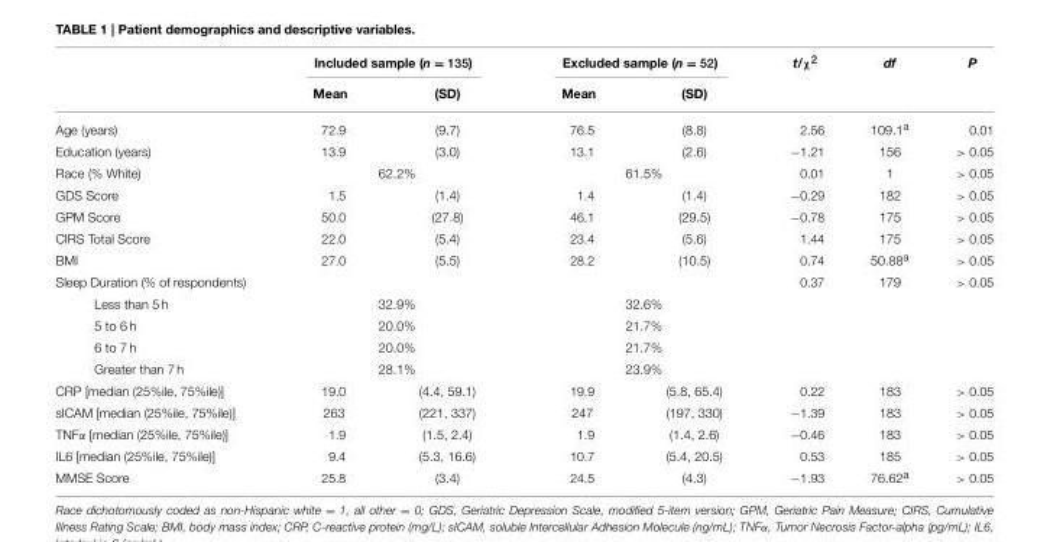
<table><thead><tr><td rowspan="2"></td><td colspan="2">Included sample (n = 135)</td><td colspan="2">Excluded sample (n = 52)</td><td rowspan="2">t/χ<sup>2</sup></td><td rowspan="2">df</td><td rowspan="2">P</td></tr><tr><td>Mean</td><td>(SD)</td><td>Mean</td><td>(SD)</td></tr></thead><tbody><tr><td>Age (years)</td><td>72.9</td><td>(9.7)</td><td>76.5</td><td>(8.8)</td><td>2.56</td><td>109.1<sup>a</sup></td><td>0.01</td></tr><tr><td>Education (years)</td><td>13.9</td><td>(3.0)</td><td>13.1</td><td>(2.6)</td><td>−1.21</td><td>156</td><td>&gt; 0.05</td></tr><tr><td>Race (% White)</td><td colspan="2">62.2%</td><td colspan="2">61.5%</td><td>0.01</td><td>1</td><td>&gt; 0.05</td></tr><tr><td>GDS Score</td><td>1.5</td><td>(1.4)</td><td>1.4</td><td>(1.4)</td><td>−0.29</td><td>182</td><td>&gt; 0.05</td></tr><tr><td>GPM Score</td><td>50.0</td><td>(27.8)</td><td>46.1</td><td>(29.5)</td><td>−0.78</td><td>175</td><td>&gt; 0.05</td></tr><tr><td>CIRS Total Score</td><td>22.0</td><td>(5.4)</td><td>23.4</td><td>(5.6)</td><td>1.44</td><td>175</td><td>&gt; 0.05</td></tr><tr><td>BMI</td><td>27.0</td><td>(5.5)</td><td>28.2</td><td>(10.5)</td><td>0.74</td><td>50.88<sup>a</sup></td><td>&gt; 0.05</td></tr><tr><td>Sleep Duration (% of respondents)</td><td></td><td></td><td></td><td></td><td>0.37</td><td>179</td><td>&gt; 0.05</td></tr><tr><td>Less than 5 h</td><td colspan="2">32.9%</td><td colspan="2">32.6%</td><td></td><td></td><td></td></tr><tr><td>5 to 6 h</td><td colspan="2">20.0%</td><td colspan="2">21.7%</td><td></td><td></td><td></td></tr><tr><td>6 to 7 h</td><td colspan="2">20.0%</td><td colspan="2">21.7%</td><td></td><td></td><td></td></tr><tr><td>Greater than 7 h</td><td colspan="2">28.1%</td><td colspan="2">23.9%</td><td></td><td></td><td></td></tr><tr><td>CRP [median (25%ile, 75%ile)]</td><td>19.0</td><td>(4.4, 59.1)</td><td>19.9</td><td>(5.8, 65.4)</td><td>0.22</td><td>183</td><td>&gt; 0.05</td></tr><tr><td>sICAM [median (25%ile, 75%ile)]</td><td>263</td><td>(221, 337)</td><td>247</td><td>(197, 330)</td><td>−1.39</td><td>183</td><td>&gt; 0.05</td></tr><tr><td>TNFα [median (25%ile, 75%ile)]</td><td>1.9</td><td>(1.5, 2.4)</td><td>1.9</td><td>(1.4, 2.6)</td><td>−0.46</td><td>183</td><td>&gt; 0.05</td></tr><tr><td>IL6 [median (25%ile, 75%ile)]</td><td>9.4</td><td>(5.3, 16.6)</td><td>10.7</td><td>(5.4, 20.5)</td><td>0.53</td><td>185</td><td>&gt; 0.05</td></tr><tr><td>MMSE Score</td><td>25.8</td><td>(3.4)</td><td>24.5</td><td>(4.3)</td><td>−1.93</td><td>76.62<sup>a</sup></td><td>&gt; 0.05</td></tr></tbody></table>